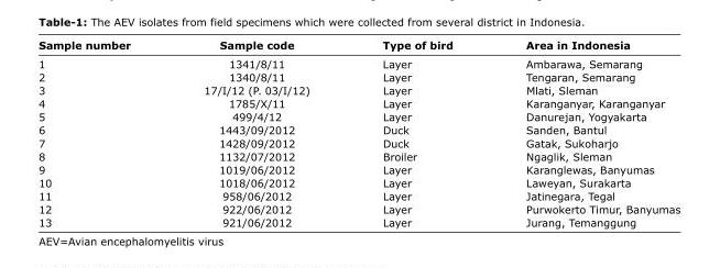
<table><thead><tr><td>Sample number</td><td>Sample code</td><td>Type of bird</td><td>Area in Indonesia</td></tr></thead><tbody><tr><td>1</td><td>1341/8/11</td><td>Layer</td><td>Ambarawa, Semarang</td></tr><tr><td>2</td><td>1340/8/11</td><td>Layer</td><td>Tengaran, Semarang</td></tr><tr><td>3</td><td>17/I/12 (P. 03/I/12)</td><td>Layer</td><td>Mlati, Sleman</td></tr><tr><td>4</td><td>1785/X/11</td><td>Layer</td><td>Karanganyar, Karanganyar</td></tr><tr><td>5</td><td>499/4/12</td><td>Layer</td><td>Danurejan, Yogyakarta</td></tr><tr><td>6</td><td>1443/09/2012</td><td>Duck</td><td>Sanden, Bantul</td></tr><tr><td>7</td><td>1428/09/2012</td><td>Duck</td><td>Gatak, Sukoharjo</td></tr><tr><td>8</td><td>1132/07/2012</td><td>Broiler</td><td>Ngaglik, Sleman</td></tr><tr><td>9</td><td>1019/06/2012</td><td>Layer</td><td>Karanglewas, Banyumas</td></tr><tr><td>10</td><td>1018/06/2012</td><td>Layer</td><td>Laweyan, Surakarta</td></tr><tr><td>11</td><td>958/06/2012</td><td>Layer</td><td>Jatinegara, Tegal</td></tr><tr><td>12</td><td>922/06/2012</td><td>Layer</td><td>Purwokerto Timur, Banyumas</td></tr><tr><td>13</td><td>921/06/2012</td><td>Layer</td><td>Jurang, Temanggung</td></tr></tbody></table>